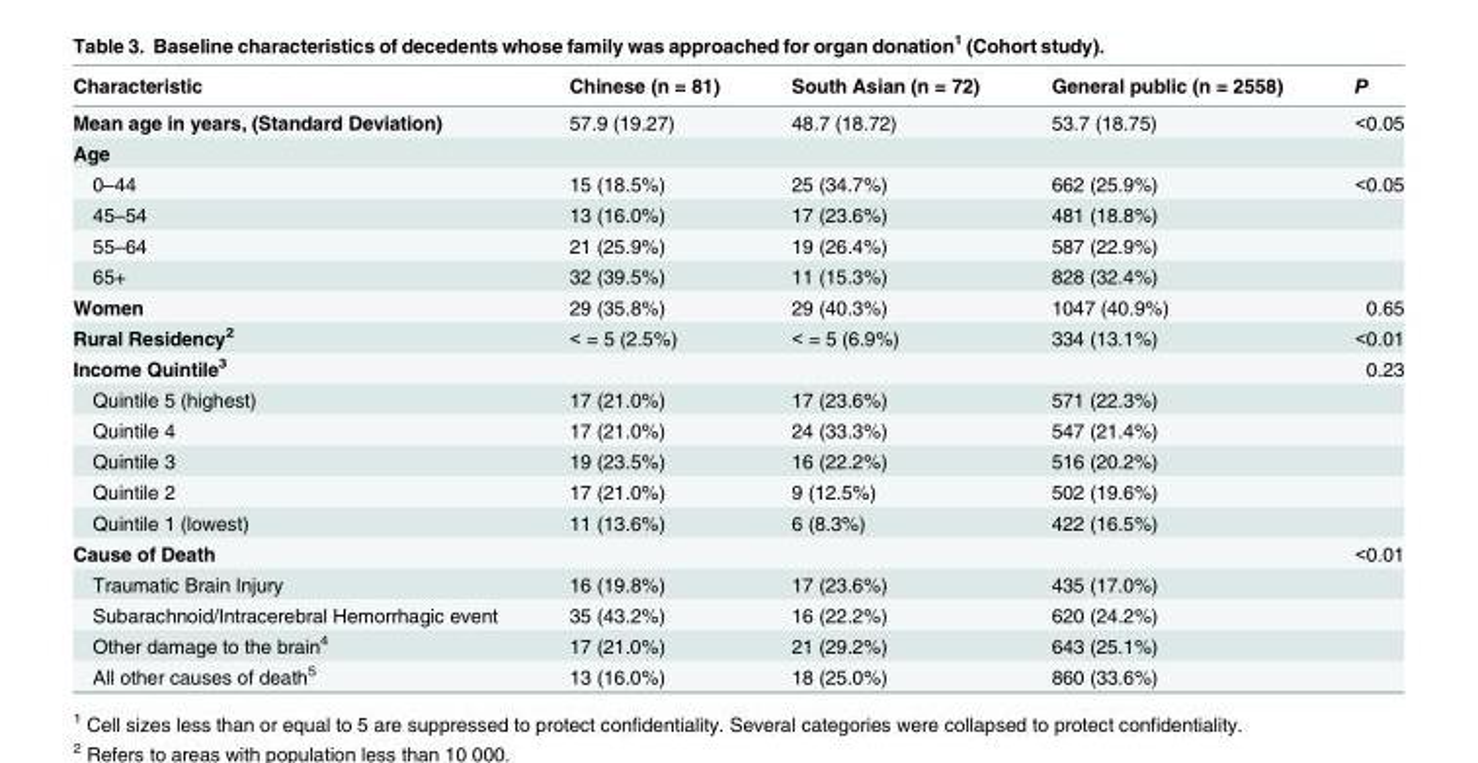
<table><thead><tr><td>Characteristic</td><td>Chinese (n = 81)</td><td>South Asian (n = 72)</td><td>General public (n = 2558)</td><td>P</td></tr></thead><tbody><tr><td>Mean age in years, (Standard Deviation)</td><td>57.9 (19.27)</td><td>48.7 (18.72)</td><td>53.7 (18.75)</td><td>&lt;0.05</td></tr><tr><td colspan="5">Age</td></tr><tr><td>0–44</td><td>15 (18.5%)</td><td>25 (34.7%)</td><td>662 (25.9%)</td><td>&lt;0.05</td></tr><tr><td>45–54</td><td>13 (16.0%)</td><td>17 (23.6%)</td><td>481 (18.8%)</td><td></td></tr><tr><td>55–64</td><td>21 (25.9%)</td><td>19 (26.4%)</td><td>587 (22.9%)</td><td></td></tr><tr><td>65+</td><td>32 (39.5%)</td><td>11 (15.3%)</td><td>828 (32.4%)</td><td></td></tr><tr><td>Women</td><td>29 (35.8%)</td><td>29 (40.3%)</td><td>1047 (40.9%)</td><td>0.65</td></tr><tr><td>Rural Residency<sup>2</sup></td><td>&lt; = 5 (2.5%)</td><td>&lt; = 5 (6.9%)</td><td>334 (13.1%)</td><td>&lt;0.01</td></tr><tr><td>Income Quintile<sup>3</sup></td><td></td><td></td><td></td><td>0.23</td></tr><tr><td>Quintile 5 (highest)</td><td>17 (21.0%)</td><td>17 (23.6%)</td><td>571 (22.3%)</td><td></td></tr><tr><td>Quintile 4</td><td>17 (21.0%)</td><td>24 (33.3%)</td><td>547 (21.4%)</td><td></td></tr><tr><td>Quintile 3</td><td>19 (23.5%)</td><td>16 (22.2%)</td><td>516 (20.2%)</td><td></td></tr><tr><td>Quintile 2</td><td>17 (21.0%)</td><td>9 (12.5%)</td><td>502 (19.6%)</td><td></td></tr><tr><td>Quintile 1 (lowest)</td><td>11 (13.6%)</td><td>6 (8.3%)</td><td>422 (16.5%)</td><td></td></tr><tr><td>Cause of Death</td><td></td><td></td><td></td><td>&lt;0.01</td></tr><tr><td>Traumatic Brain Injury</td><td>16 (19.8%)</td><td>17 (23.6%)</td><td>435 (17.0%)</td><td></td></tr><tr><td>Subarachnoid/Intracerebral Hemorrhagic event</td><td>35 (43.2%)</td><td>16 (22.2%)</td><td>620 (24.2%)</td><td></td></tr><tr><td>Other damage to the brain<sup>4</sup></td><td>17 (21.0%)</td><td>21 (29.2%)</td><td>643 (25.1%)</td><td></td></tr><tr><td>All other causes of death<sup>5</sup></td><td>13 (16.0%)</td><td>18 (25.0%)</td><td>860 (33.6%)</td><td></td></tr></tbody></table>